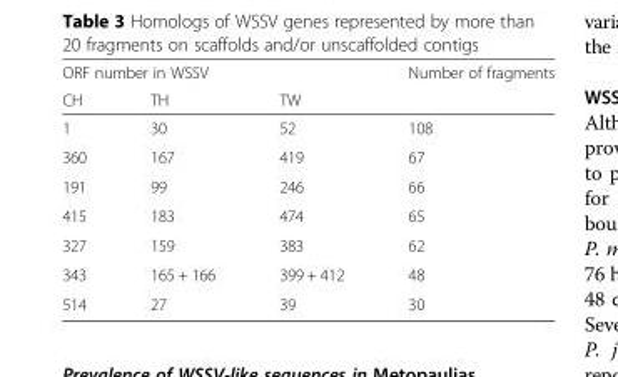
<table><thead><tr><td colspan="3">ORF number in WSSV</td><td rowspan="2">Number of fragments</td></tr><tr><td>CH</td><td>TH</td><td>TW</td></tr></thead><tbody><tr><td>1</td><td>30</td><td>52</td><td>108</td></tr><tr><td>360</td><td>167</td><td>419</td><td>67</td></tr><tr><td>191</td><td>99</td><td>246</td><td>66</td></tr><tr><td>415</td><td>183</td><td>474</td><td>65</td></tr><tr><td>327</td><td>159</td><td>383</td><td>62</td></tr><tr><td>343</td><td>165 + 166</td><td>399 + 412</td><td>48</td></tr><tr><td>514</td><td>27</td><td>39</td><td>30</td></tr></tbody></table>